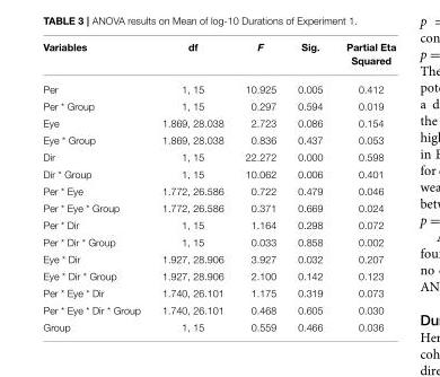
<table><thead><tr><td>Variables</td><td>df</td><td>F</td><td>Sig.</td><td>Partial Eta Squared</td></tr></thead><tbody><tr><td>Per</td><td>1, 15</td><td>10.925</td><td>0.005</td><td>0.412</td></tr><tr><td>Per * Group</td><td>1, 15</td><td>0.297</td><td>0.594</td><td>0.019</td></tr><tr><td>Eye</td><td>1.869, 28.038</td><td>2.723</td><td>0.086</td><td>0.154</td></tr><tr><td>Eye * Group</td><td>1.869, 28.038</td><td>0.836</td><td>0.437</td><td>0.053</td></tr><tr><td>Dir</td><td>1, 15</td><td>22.272</td><td>0.000</td><td>0.598</td></tr><tr><td>Dir * Group</td><td>1, 15</td><td>10.062</td><td>0.006</td><td>0.401</td></tr><tr><td>Per * Eye</td><td>1.772, 26.586</td><td>0.722</td><td>0.479</td><td>0.046</td></tr><tr><td>Per * Eye * Group</td><td>1.772, 26.586</td><td>0.371</td><td>0.669</td><td>0.024</td></tr><tr><td>Per * Dir</td><td>1, 15</td><td>1.164</td><td>0.298</td><td>0.072</td></tr><tr><td>Per * Dir * Group</td><td>1, 15</td><td>0.033</td><td>0.858</td><td>0.002</td></tr><tr><td>Eye * Dir</td><td>1.927, 28.906</td><td>3.927</td><td>0.032</td><td>0.207</td></tr><tr><td>Eye * Dir * Group</td><td>1.927, 28.906</td><td>2.100</td><td>0.142</td><td>0.123</td></tr><tr><td>Per * Eye * Dir</td><td>1.740, 26.101</td><td>1.175</td><td>0.319</td><td>0.073</td></tr><tr><td>Per * Eye * Dir * Group</td><td>1.740, 26.101</td><td>0.468</td><td>0.605</td><td>0.030</td></tr><tr><td>Group</td><td>1, 15</td><td>0.559</td><td>0.466</td><td>0.036</td></tr></tbody></table>